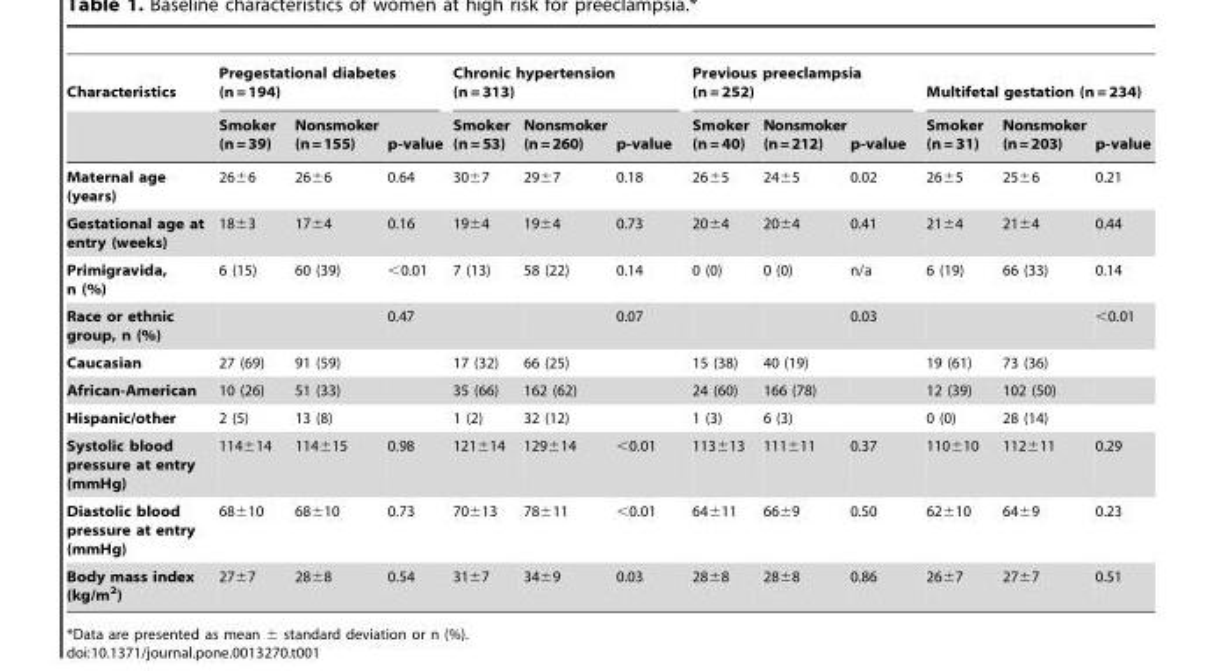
<table><thead><tr><td rowspan="2">Characteristics</td><td colspan="3">Pregestational diabetes (n = 194)</td><td colspan="3">Chronic hypertension (n = 313)</td><td colspan="3">Previous preeclampsia (n = 252)</td><td colspan="3">Multifetal gestation (n = 234)</td></tr><tr><td>Smoker (n = 39)</td><td>Nonsmoker (n=155)</td><td>p-value</td><td>Smoker (n = 53)</td><td>Nonsmoker (n=260)</td><td>p-value</td><td>Smoker (n = 40)</td><td>Nonsmoker (n=212)</td><td>p-value</td><td>Smoker (n = 31)</td><td>Nonsmoker (n=203)</td><td>p-value</td></tr></thead><tbody><tr><td>Maternal age (years)</td><td>26±6</td><td>26±6</td><td>0.64</td><td>30±7</td><td>29±7</td><td>0.18</td><td>26±5</td><td>24±5</td><td>0.02</td><td>26±5</td><td>25±6</td><td>0.21</td></tr><tr><td>Gestational age at entry (weeks)</td><td>18±3</td><td>17±4</td><td>0.16</td><td>19±4</td><td>19±4</td><td>0.73</td><td>20±4</td><td>20±4</td><td>0.41</td><td>21±4</td><td>21±4</td><td>0.44</td></tr><tr><td>Primigravida, n (%)</td><td>6 (15)</td><td>60 (39)</td><td>&lt;0.01</td><td>7 (13)</td><td>58 (22)</td><td>0.14</td><td>0 (0)</td><td>0 (0)</td><td>n/a</td><td>6 (19)</td><td>66 (33)</td><td>0.14</td></tr><tr><td>Race or ethnic group, n (%)</td><td></td><td></td><td>0.47</td><td></td><td></td><td>0.07</td><td></td><td></td><td>0.03</td><td></td><td></td><td>&lt;0.01</td></tr><tr><td>Caucasian</td><td>27 (69)</td><td>91 (59)</td><td></td><td>17 (32)</td><td>66 (25)</td><td></td><td>15 (38)</td><td>40 (19)</td><td></td><td>19 (61)</td><td>73 (36)</td><td></td></tr><tr><td>African-American</td><td>10 (26)</td><td>51 (33)</td><td></td><td>35 (66)</td><td>162 (62)</td><td></td><td>24 (60)</td><td>166 (78)</td><td></td><td>12 (39)</td><td>102 (50)</td><td></td></tr><tr><td>Hispanic/other</td><td>2 (5)</td><td>13 (8)</td><td></td><td>1 (2)</td><td>32 (12)</td><td></td><td>1 (3)</td><td>6 (3)</td><td></td><td>0 (0)</td><td>28 (14)</td><td></td></tr><tr><td>Systolic blood pressure at entry (mmHg)</td><td>114±14</td><td>114±15</td><td>0.98</td><td>121±14</td><td>129±14</td><td>&lt;0.01</td><td>113±13</td><td>111±11</td><td>0.37</td><td>110±10</td><td>112±11</td><td>0.29</td></tr><tr><td>Diastolic blood pressure at entry (mmHg)</td><td>68±10</td><td>68±10</td><td>0.73</td><td>70±13</td><td>78±11</td><td>&lt;0.01</td><td>64±11</td><td>66±9</td><td>0.50</td><td>62±10</td><td>64±9</td><td>0.23</td></tr><tr><td>Body mass index (kg/m<sup>2</sup>)</td><td>27±7</td><td>28±8</td><td>0.54</td><td>31±7</td><td>34±9</td><td>0.03</td><td>28±8</td><td>28±8</td><td>0.86</td><td>26±7</td><td>27±7</td><td>0.51</td></tr></tbody></table>